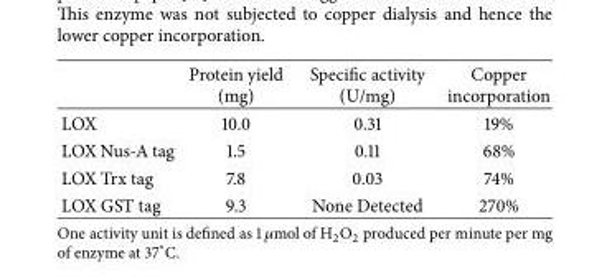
<table><thead><tr><td></td><td>Protein yield (mg)</td><td>Specific activity (U/mg)</td><td>Copper incorporation</td></tr></thead><tbody><tr><td>LOX</td><td>10.0</td><td>0.31</td><td>19%</td></tr><tr><td>LOX Nus-A tag</td><td>1.5</td><td>0.11</td><td>68%</td></tr><tr><td>LOX Trx tag</td><td>7.8</td><td>0.03</td><td>74%</td></tr><tr><td>LOX GST tag</td><td>9.3</td><td>None Detected</td><td>270%</td></tr></tbody></table>